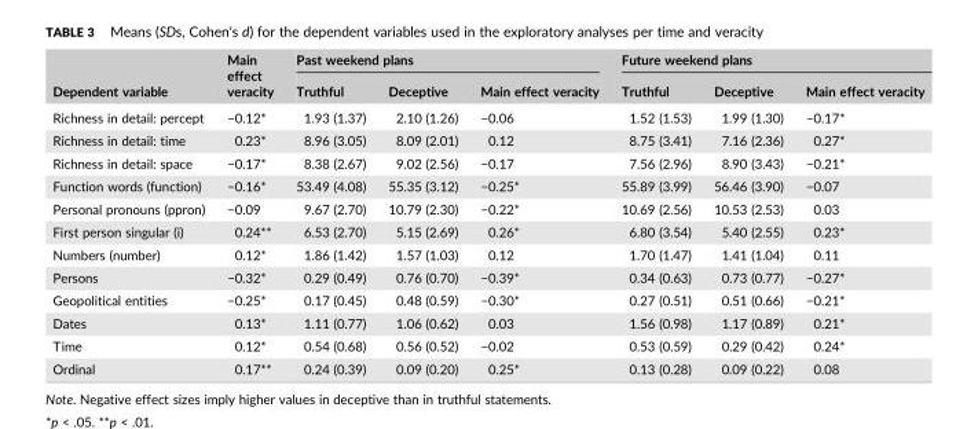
<table><thead><tr><td rowspan="2">Dependent variable</td><td rowspan="2">Main effect veracity</td><td colspan="3">Past weekend plans</td><td colspan="3">Future weekend plans</td></tr><tr><td>Truthful</td><td>Deceptive</td><td>Main effect veracity</td><td>Truthful</td><td>Deceptive</td><td>Main effect veracity</td></tr></thead><tbody><tr><td>Richness in detail: percept</td><td>−0.12*</td><td>1.93 (1.37)</td><td>2.10 (1.26)</td><td>−0.06</td><td>1.52 (1.53)</td><td>1.99 (1.30)</td><td>−0.17*</td></tr><tr><td>Richness in detail: time</td><td>0.23*</td><td>8.96 (3.05)</td><td>8.09 (2.01)</td><td>0.12</td><td>8.75 (3.41)</td><td>7.16 (2.36)</td><td>0.27*</td></tr><tr><td>Richness in detail: space</td><td>−0.17*</td><td>8.38 (2.67)</td><td>9.02 (2.56)</td><td>−0.17</td><td>7.56 (2.96)</td><td>8.90 (3.43)</td><td>−0.21*</td></tr><tr><td>Function words (function)</td><td>−0.16*</td><td>53.49 (4.08)</td><td>55.35 (3.12)</td><td>−0.25*</td><td>55.89 (3.99)</td><td>56.46 (3.90)</td><td>−0.07</td></tr><tr><td>Personal pronouns (ppron)</td><td>−0.09</td><td>9.67 (2.70)</td><td>10.79 (2.30)</td><td>−0.22*</td><td>10.69 (2.56)</td><td>10.53 (2.53)</td><td>0.03</td></tr><tr><td>First person singular (i)</td><td>0.24**</td><td>6.53 (2.70)</td><td>5.15 (2.69)</td><td>0.26*</td><td>6.80 (3.54)</td><td>5.40 (2.55)</td><td>0.23*</td></tr><tr><td>Numbers (number)</td><td>0.12*</td><td>1.86 (1.42)</td><td>1.57 (1.03)</td><td>0.12</td><td>1.70 (1.47)</td><td>1.41 (1.04)</td><td>0.11</td></tr><tr><td>Persons</td><td>−0.32*</td><td>0.29 (0.49)</td><td>0.76 (0.70)</td><td>−0.39*</td><td>0.34 (0.63)</td><td>0.73 (0.77)</td><td>−0.27*</td></tr><tr><td>Geopolitical entities</td><td>−0.25*</td><td>0.17 (0.45)</td><td>0.48 (0.59)</td><td>−0.30*</td><td>0.27 (0.51)</td><td>0.51 (0.66)</td><td>−0.21*</td></tr><tr><td>Dates</td><td>0.13*</td><td>1.11 (0.77)</td><td>1.06 (0.62)</td><td>0.03</td><td>1.56 (0.98)</td><td>1.17 (0.89)</td><td>0.21*</td></tr><tr><td>Time</td><td>0.12*</td><td>0.54 (0.68)</td><td>0.56 (0.52)</td><td>−0.02</td><td>0.53 (0.59)</td><td>0.29 (0.42)</td><td>0.24*</td></tr><tr><td>Ordinal</td><td>0.17**</td><td>0.24 (0.39)</td><td>0.09 (0.20)</td><td>0.25*</td><td>0.13 (0.28)</td><td>0.09 (0.22)</td><td>0.08</td></tr></tbody></table>